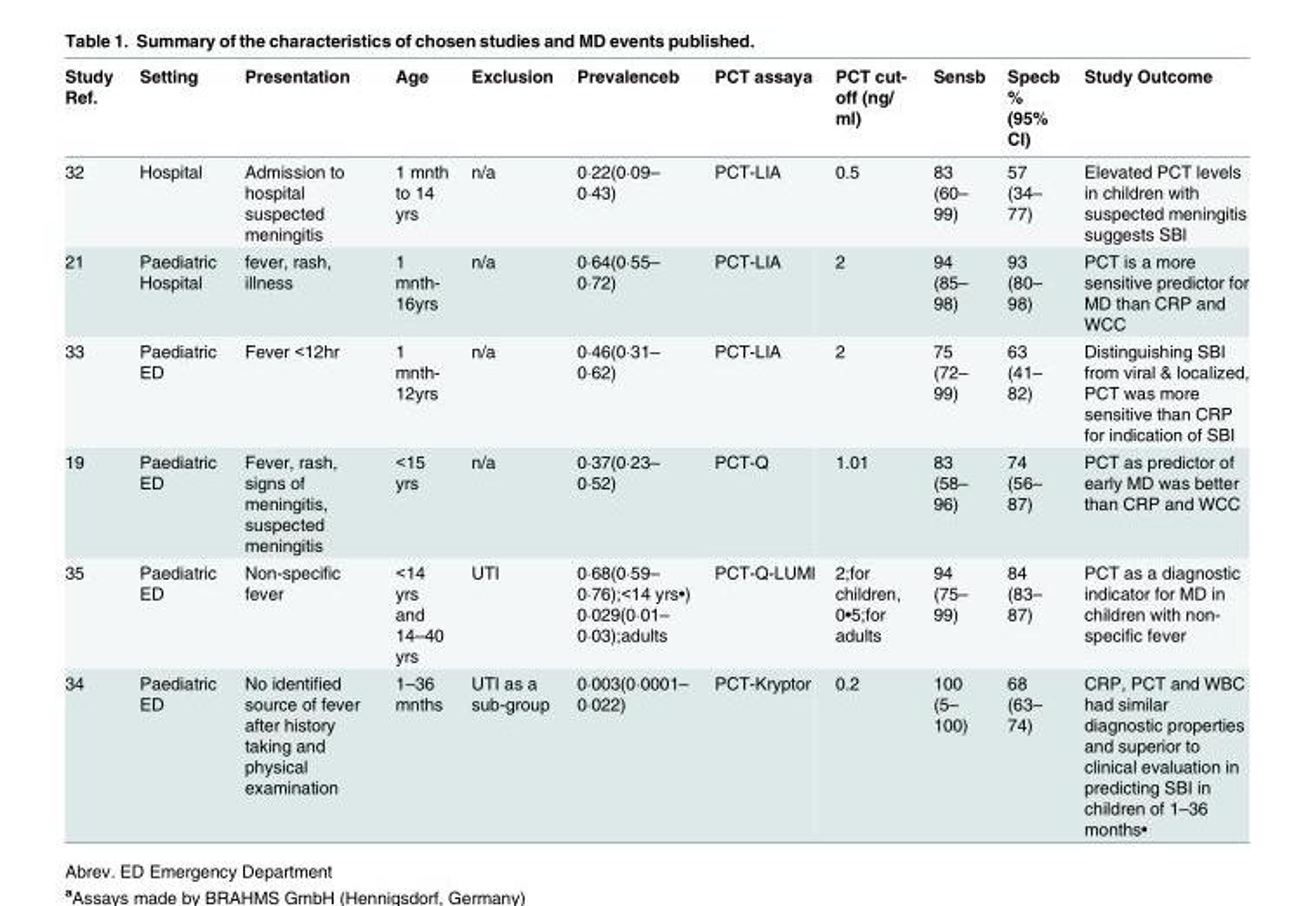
<table><thead><tr><td>Study Ref.</td><td>Setting</td><td>Presentation</td><td>Age</td><td>Exclusion</td><td>Prevalenceb</td><td>PCT assaya</td><td>PCT cut- off (ng/ ml)</td><td>Sensb</td><td>Specb % (95% CI)</td><td>Study Outcome</td></tr></thead><tbody><tr><td>32</td><td>Hospital</td><td>Admission to hospital suspected meningitis</td><td>1 mnth to 14 yrs</td><td>n/a</td><td>0·22(0·09– 0·43)</td><td>PCT-LIA</td><td>0.5</td><td>83 (60– 99)</td><td>57 (34– 77)</td><td>Elevated PCT levels in children with suspected meningitis suggests SBI</td></tr><tr><td>21</td><td>Paediatric Hospital</td><td>fever, rash, illness</td><td>1 mnth- 16yrs</td><td>n/a</td><td>0·64(0·55– 0·72)</td><td>PCT-LIA</td><td>2</td><td>94 (85– 98)</td><td>93 (80– 98)</td><td>PCT is a more sensitive predictor for MD than CRP and WCC</td></tr><tr><td>33</td><td>Paediatric ED</td><td>Fever &lt;12hr</td><td>1 mnth- 12yrs</td><td>n/a</td><td>0·46(0·31– 0·62)</td><td>PCT-LIA</td><td>2</td><td>75 (72– 99)</td><td>63 (41– 82)</td><td>Distinguishing SBI from viral &amp; localized, PCT was more sensitive than CRP for indication of SBI</td></tr><tr><td>19</td><td>Paediatric ED</td><td>Fever, rash, signs of meningitis, suspected meningitis</td><td>&lt;15 yrs</td><td>n/a</td><td>0·37(0·23– 0·52)</td><td>PCT-Q</td><td>1.01</td><td>83 (58– 96)</td><td>74 (56– 87)</td><td>PCT as predictor of early MD was better than CRP and WCC</td></tr><tr><td>35</td><td>Paediatric ED</td><td>Non-specific fever</td><td>&lt;14 yrs and 14–40 yrs</td><td>UTI</td><td>0·68(0·59– 0·76);&lt;14 yrs•) 0·029(0·01– 0·03);adults</td><td>PCT-Q-LUMI</td><td>2;for children, 0•5;for adults</td><td>94 (75– 99)</td><td>84 (83– 87)</td><td>PCT as a diagnostic indicator for MD in children with non- specific fever</td></tr><tr><td>34</td><td>Paediatric ED</td><td>No identified source of fever after history taking and physical examination</td><td>1–36 mnths</td><td>UTI as a sub-group</td><td>0·003(0·0001– 0·022)</td><td>PCT-Kryptor</td><td>0.2</td><td>100 (5– 100)</td><td>68 (63– 74)</td><td>CRP, PCT and WBC had similar diagnostic properties and superior to clinical evaluation in predicting SBI in children of 1–36 months•</td></tr></tbody></table>